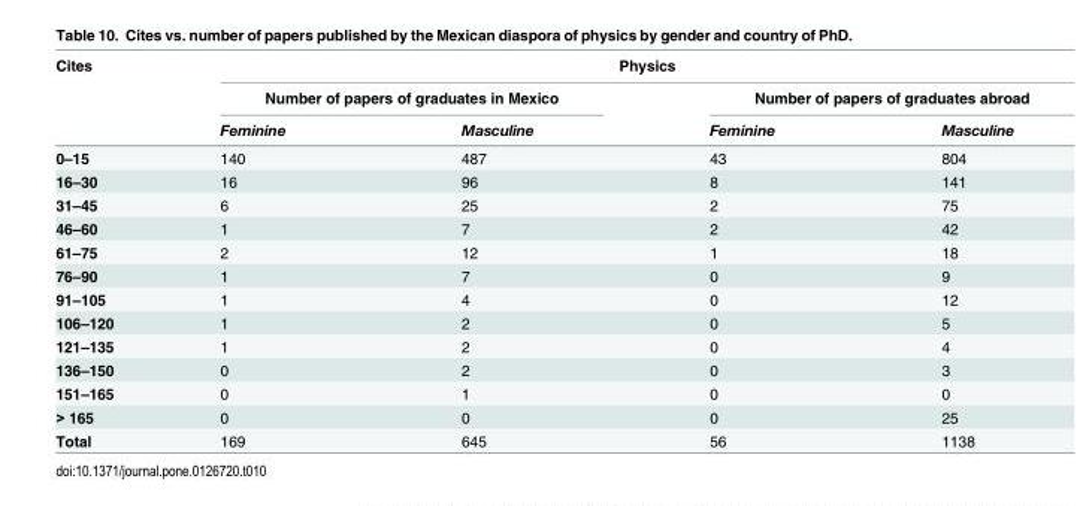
<table><thead><tr><td rowspan="3">Cites</td><td colspan="4">Physics</td></tr><tr><td colspan="2">Number of papers of graduates in Mexico</td><td colspan="2">Number of papers of graduates abroad</td></tr><tr><td>Feminine</td><td>Masculine</td><td>Feminine</td><td>Masculine</td></tr></thead><tbody><tr><td>0–15</td><td>140</td><td>487</td><td>43</td><td>804</td></tr><tr><td>16–30</td><td>16</td><td>96</td><td>8</td><td>141</td></tr><tr><td>31–45</td><td>6</td><td>25</td><td>2</td><td>75</td></tr><tr><td>46–60</td><td>1</td><td>7</td><td>2</td><td>42</td></tr><tr><td>61–75</td><td>2</td><td>12</td><td>1</td><td>18</td></tr><tr><td>76–90</td><td>1</td><td>7</td><td>0</td><td>9</td></tr><tr><td>91–105</td><td>1</td><td>4</td><td>0</td><td>12</td></tr><tr><td>106–120</td><td>1</td><td>2</td><td>0</td><td>5</td></tr><tr><td>121–135</td><td>1</td><td>2</td><td>0</td><td>4</td></tr><tr><td>136–150</td><td>0</td><td>2</td><td>0</td><td>3</td></tr><tr><td>151–165</td><td>0</td><td>1</td><td>0</td><td>0</td></tr><tr><td>&gt; 165</td><td>0</td><td>0</td><td>0</td><td>25</td></tr><tr><td>Total</td><td>169</td><td>645</td><td>56</td><td>1138</td></tr></tbody></table>